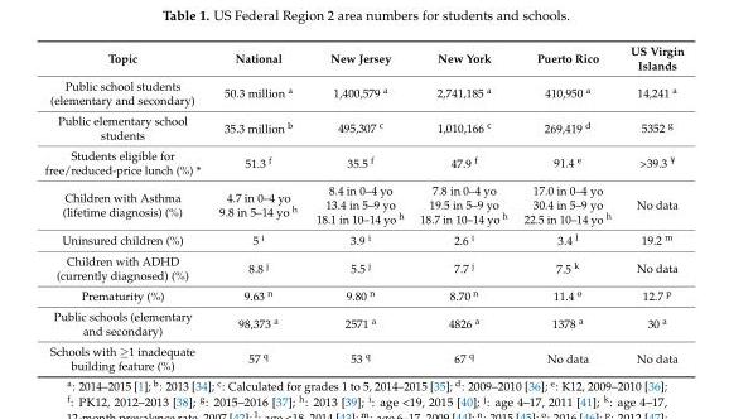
<table><thead><tr><td>Topic</td><td>National</td><td>New Jersey</td><td>New York</td><td>Puerto Rico</td><td>US Virgin Islands</td></tr></thead><tbody><tr><td>Public school students (elementary and secondary)</td><td>50.3 million <sup>a</sup></td><td>1,400,579 <sup>a</sup></td><td>2,741,185 <sup>a</sup></td><td>410,950 <sup>a</sup></td><td>14,241 <sup>a</sup></td></tr><tr><td>Public elementary school students</td><td>35.3 million <sup>b</sup></td><td>495,307 <sup>c</sup></td><td>1,010,166 <sup>c</sup></td><td>269,419 <sup>d</sup></td><td>5352 <sup>g</sup></td></tr><tr><td>Students eligible for free/reduced-price lunch (%) *</td><td>51.3 <sup>f</sup></td><td>35.5 <sup>f</sup></td><td>47.9 <sup>f</sup></td><td>91.4 <sup>e</sup></td><td>&gt;39.3 <sup>¥</sup></td></tr><tr><td>Children with Asthma (lifetime diagnosis) (%)</td><td>4.7 in 0–4 yo 9.8 in 5–14 yo <sup>h</sup></td><td>8.4 in 0–4 yo 13.4 in 5–9 yo 18.1 in 10–14 yo <sup>h</sup></td><td>7.8 in 0–4 yo 19.5 in 5–9 yo 18.7 in 10–14 yo <sup>h</sup></td><td>17.0 in 0–4 yo 30.4 in 5–9 yo 22.5 in 10–14 yo <sup>h</sup></td><td>No data</td></tr><tr><td>Uninsured children (%)</td><td>5 <sup>i</sup></td><td>3.9 <sup>i</sup></td><td>2.6 <sup>i</sup></td><td>3.4 <sup>l</sup></td><td>19.2 <sup>m</sup></td></tr><tr><td>Children with ADHD (currently diagnosed) (%)</td><td>8.8 <sup>j</sup></td><td>5.5 <sup>j</sup></td><td>7.7 <sup>j</sup></td><td>7.5 <sup>k</sup></td><td>No data</td></tr><tr><td>Prematurity (%)</td><td>9.63 <sup>n</sup></td><td>9.80 <sup>n</sup></td><td>8.70 <sup>n</sup></td><td>11.4 <sup>o</sup></td><td>12.7 <sup>p</sup></td></tr><tr><td>Public schools (elementary and secondary)</td><td>98,373 <sup>a</sup></td><td>2571 <sup>a</sup></td><td>4826 <sup>a</sup></td><td>1378 <sup>a</sup></td><td>30 <sup>a</sup></td></tr><tr><td>Schools with ≥1 inadequate building feature (%)</td><td>57 <sup>q</sup></td><td>53 <sup>q</sup></td><td>67 <sup>q</sup></td><td>No data</td><td>No data</td></tr></tbody></table>